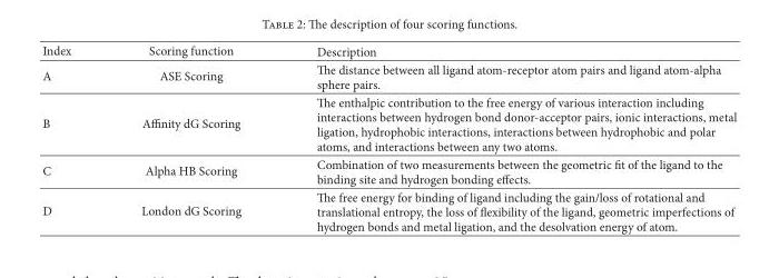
<table><thead><tr><td>Index</td><td>Scoring function</td><td>Description</td></tr></thead><tbody><tr><td>A</td><td>ASE Scoring</td><td>The distance between all ligand atom-receptor atom pairs and ligand atom-alpha sphere pairs.</td></tr><tr><td>B</td><td>Affinity dG Scoring</td><td>The enthalpic contribution to the free energy of various interaction including interactions between hydrogen bond donor-acceptor pairs, ionic interactions, metal ligation, hydrophobic interactions, interactions between hydrophobic and polar atoms, and interactions between any two atoms.</td></tr><tr><td>C</td><td>Alpha HB Scoring</td><td>Combination of two measurements between the geometric fit of the ligand to the binding site and hydrogen bonding effects.</td></tr><tr><td>D</td><td>London dG Scoring</td><td>The free energy for binding of ligand including the gain/loss of rotational and translational entropy, the loss of flexibility of the ligand, geometric imperfections of hydrogen bonds and metal ligation, and the desolvation energy of atom.</td></tr></tbody></table>